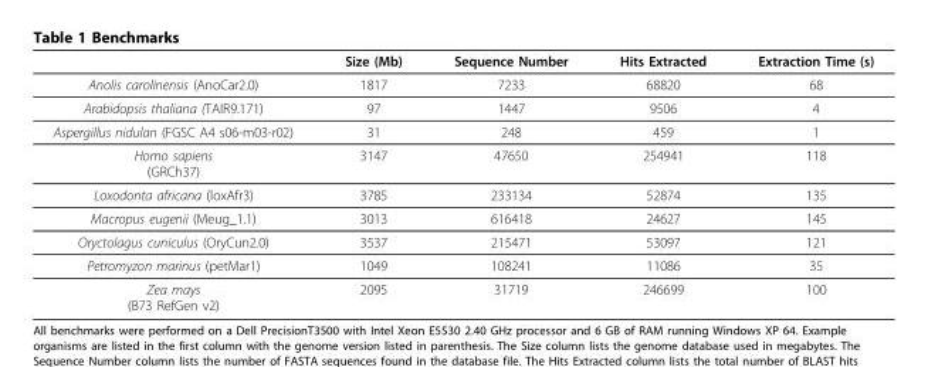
<table><thead><tr><td></td><td>Size (Mb)</td><td>Sequence Number</td><td>Hits Extracted</td><td>Extraction Time (s)</td></tr></thead><tbody><tr><td>Anolis carolinensis (AnoCar2.0)</td><td>1817</td><td>7233</td><td>68820</td><td>68</td></tr><tr><td>Arabidopsis thaliana (TAIR9.171)</td><td>97</td><td>1447</td><td>9506</td><td>4</td></tr><tr><td>Aspergillus nidulan (FGSC A4 s06-m03-r02)</td><td>31</td><td>248</td><td>459</td><td>1</td></tr><tr><td>Homo sapiens (GRCh37)</td><td>3147</td><td>47650</td><td>254941</td><td>118</td></tr><tr><td>Loxodonta africana (loxAfr3)</td><td>3785</td><td>233134</td><td>52874</td><td>135</td></tr><tr><td>Macropus eugenii (Meug_1.1)</td><td>3013</td><td>616418</td><td>24627</td><td>145</td></tr><tr><td>Oryctolagus cuniculus (OryCun2.0)</td><td>3537</td><td>215471</td><td>53097</td><td>121</td></tr><tr><td>Petromyzon marinus (petMar1)</td><td>1049</td><td>108241</td><td>11086</td><td>35</td></tr><tr><td>Zea mays (B73 RefGen v2)</td><td>2095</td><td>31719</td><td>246699</td><td>100</td></tr></tbody></table>